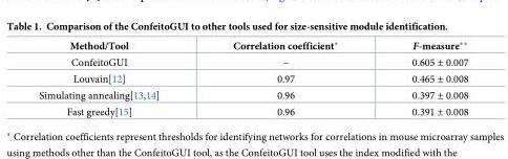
<table><thead><tr><td>Method/Tool</td><td>Correlation coefficient*</td><td>F-measure**</td></tr></thead><tbody><tr><td>ConfeitoGUI</td><td>–</td><td>0.605 ± 0.007</td></tr><tr><td>Louvain[12]</td><td>0.97</td><td>0.465 ± 0.008</td></tr><tr><td>Simulating annealing[13,14]</td><td>0.96</td><td>0.397 ± 0.008</td></tr><tr><td>Fast greedy[15]</td><td>0.96</td><td>0.391 ± 0.008</td></tr></tbody></table>